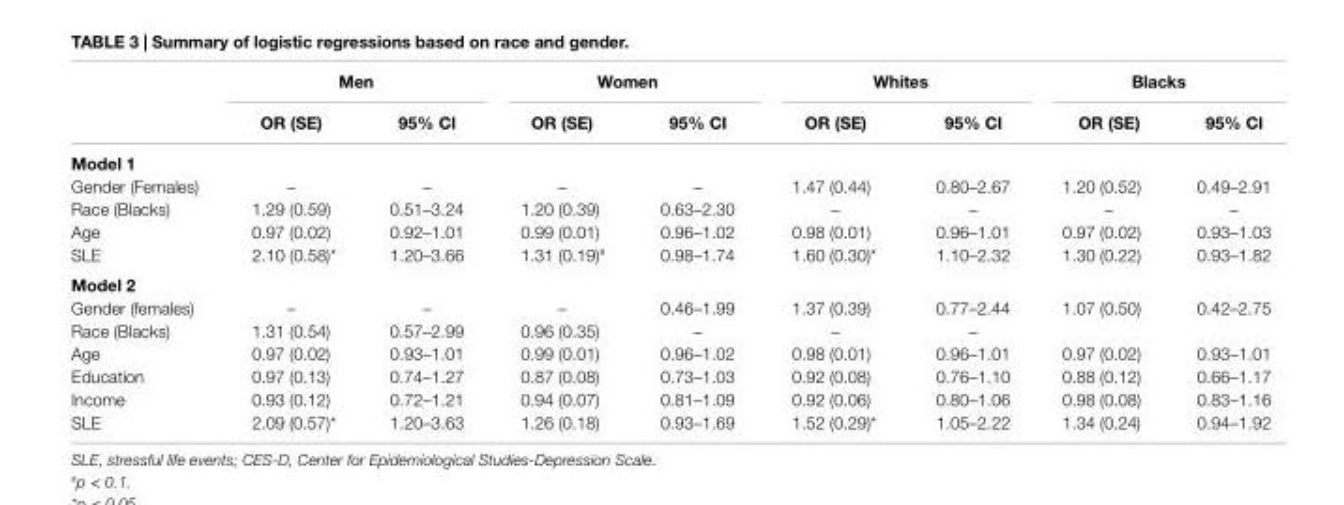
<table><thead><tr><td rowspan="2"></td><td colspan="2">Men</td><td colspan="2">Women</td><td colspan="2">Whites</td><td colspan="2">Blacks</td></tr><tr><td>Or (se)</td><td>95% ci</td><td>Or (se)</td><td>95% ci</td><td>Or (se)</td><td>95% ci</td><td>Or (se)</td><td>95% ci</td></tr></thead><tbody><tr><td colspan="9">Model 1</td></tr><tr><td>Gender (Females)</td><td>–</td><td>–</td><td>–</td><td>–</td><td>1.47 (0.44)</td><td>0.80–2.67</td><td>1.20 (0.52)</td><td>0.49–2.91</td></tr><tr><td>Race (Blacks)</td><td>1.29 (0.59)</td><td>0.51–3.24</td><td>1.20 (0.39)</td><td>0.63–2.30</td><td>–</td><td>–</td><td>–</td><td>–</td></tr><tr><td>Age</td><td>0.97 (0.02)</td><td>0.92–1.01</td><td>0.99 (0.01)</td><td>0.96–1.02</td><td>0.98 (0.01)</td><td>0.96–1.01</td><td>0.97 (0.02)</td><td>0.93–1.03</td></tr><tr><td>SLE</td><td>2.10 (0.58)*</td><td>1.20–3.66</td><td>1.31 (0.19)<sup>#</sup></td><td>0.98–1.74</td><td>1.60 (0.30)*</td><td>1.10–2.32</td><td>1.30 (0.22)</td><td>0.93–1.82</td></tr><tr><td colspan="9">Model 2</td></tr><tr><td>Gender (females)</td><td>–</td><td>–</td><td>–</td><td>0.46–1.99</td><td>1.37 (0.39)</td><td>0.77–2.44</td><td>1.07 (0.50)</td><td>0.42–2.75</td></tr><tr><td>Race (Blacks)</td><td>1.31 (0.54)</td><td>0.57–2.99</td><td>0.96 (0.35)</td><td>–</td><td>–</td><td>–</td><td></td><td></td></tr><tr><td>Age</td><td>0.97 (0.02)</td><td>0.93–1.01</td><td>0.99 (0.01)</td><td>0.96–1.02</td><td>0.98 (0.01)</td><td>0.96–1.01</td><td>0.97 (0.02)</td><td>0.93–1.01</td></tr><tr><td>Education</td><td>0.97 (0.13)</td><td>0.74–1.27</td><td>0.87 (0.08)</td><td>0.73–1.03</td><td>0.92 (0.08)</td><td>0.76–1.10</td><td>0.88 (0.12)</td><td>0.66–1.17</td></tr><tr><td>Income</td><td>0.93 (0.12)</td><td>0.72–1.21</td><td>0.94 (0.07)</td><td>0.81–1.09</td><td>0.92 (0.06)</td><td>0.80–1.06</td><td>0.98 (0.08)</td><td>0.83–1.16</td></tr><tr><td>SLE</td><td>2.09 (0.57)*</td><td>1.20–3.63</td><td>1.26 (0.18)</td><td>0.93–1.69</td><td>1.52 (0.29)*</td><td>1.05–2.22</td><td>1.34 (0.24)</td><td>0.94–1.92</td></tr></tbody></table>